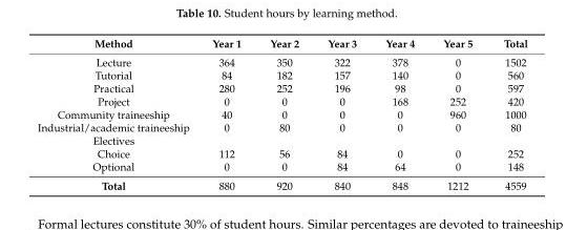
<table><thead><tr><td>Method</td><td>Year 1</td><td>Year 2</td><td>Year 3</td><td>Year 4</td><td>Year 5</td><td>Total</td></tr></thead><tbody><tr><td>Lecture</td><td>364</td><td>350</td><td>322</td><td>378</td><td>0</td><td>1502</td></tr><tr><td>Tutorial</td><td>84</td><td>182</td><td>157</td><td>140</td><td>0</td><td>560</td></tr><tr><td>Practical</td><td>280</td><td>252</td><td>196</td><td>98</td><td>0</td><td>597</td></tr><tr><td>Project</td><td>0</td><td>0</td><td>0</td><td>168</td><td>252</td><td>420</td></tr><tr><td>Community traineeship</td><td>40</td><td>0</td><td>0</td><td>0</td><td>960</td><td>1000</td></tr><tr><td>Industrial/academic traineeship</td><td>0</td><td>80</td><td>0</td><td>0</td><td>0</td><td>80</td></tr><tr><td colspan="7">Electives</td></tr><tr><td>Choice</td><td>112</td><td>56</td><td>84</td><td>0</td><td>0</td><td>252</td></tr><tr><td>Optional</td><td>0</td><td>0</td><td>84</td><td>64</td><td>0</td><td>148</td></tr><tr><td>Total</td><td>880</td><td>920</td><td>840</td><td>848</td><td>1212</td><td>4559</td></tr></tbody></table>